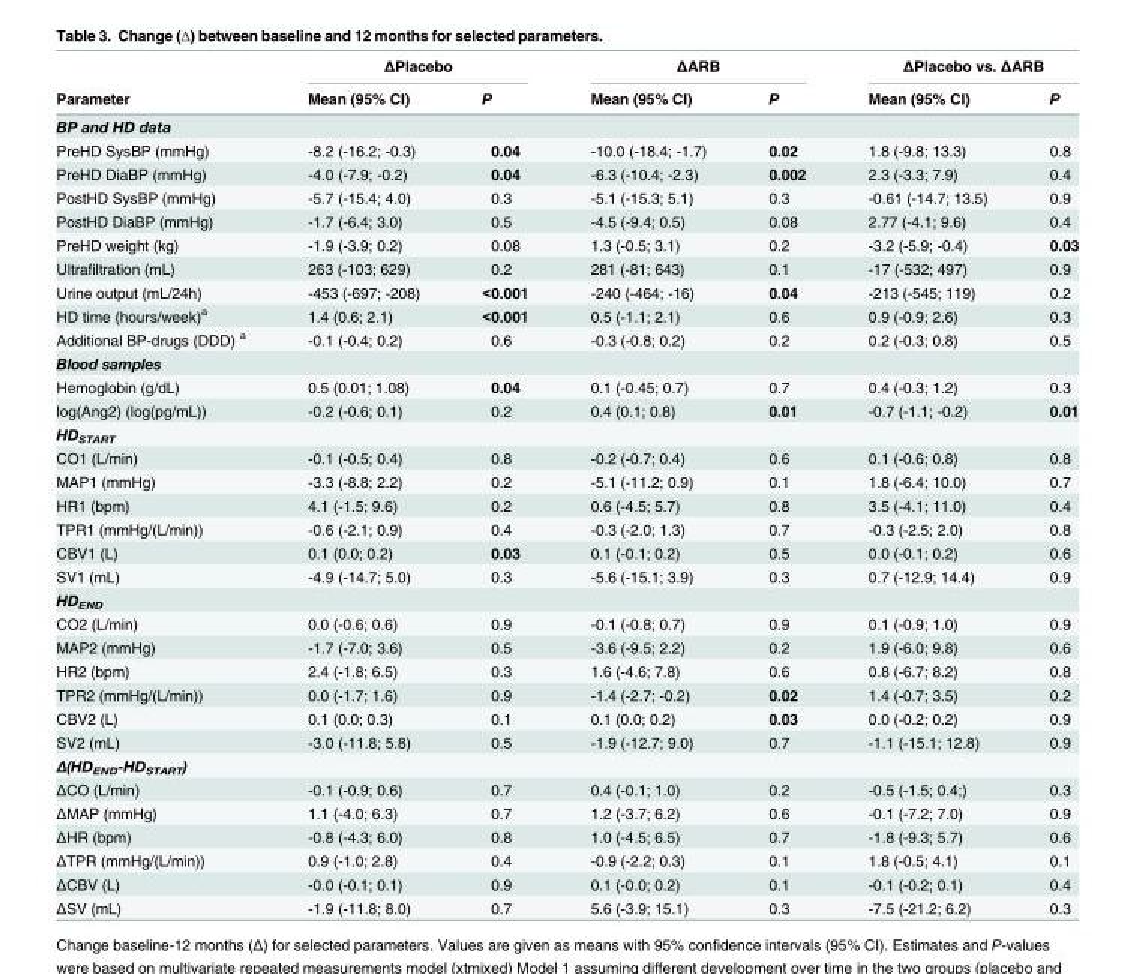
<table><thead><tr><td rowspan="2">Parameter</td><td colspan="2">ΔPlacebo</td><td colspan="2">ΔARB</td><td colspan="2">ΔPlacebo vs. ΔARB</td></tr><tr><td>Mean (95% CI)</td><td>P</td><td>Mean (95% CI)</td><td>P</td><td>Mean (95% CI)</td><td>P</td></tr></thead><tbody><tr><td colspan="7">BP and HD data</td></tr><tr><td>PreHD SysBP (mmHg)</td><td>-8.2 (-16.2; -0.3)</td><td>0.04</td><td>-10.0 (-18.4; -1.7)</td><td>0.02</td><td>1.8 (-9.8; 13.3)</td><td>0.8</td></tr><tr><td>PreHD DiaBP (mmHg)</td><td>-4.0 (-7.9; -0.2)</td><td>0.04</td><td>-6.3 (-10.4; -2.3)</td><td>0.002</td><td>2.3 (-3.3; 7.9)</td><td>0.4</td></tr><tr><td>PostHD SysBP (mmHg)</td><td>-5.7 (-15.4; 4.0)</td><td>0.3</td><td>-5.1 (-15.3; 5.1)</td><td>0.3</td><td>-0.61 (-14.7; 13.5)</td><td>0.9</td></tr><tr><td>PostHD DiaBP (mmHg)</td><td>-1.7 (-6.4; 3.0)</td><td>0.5</td><td>-4.5 (-9.4; 0.5)</td><td>0.08</td><td>2.77 (-4.1; 9.6)</td><td>0.4</td></tr><tr><td>PreHD weight (kg)</td><td>-1.9 (-3.9; 0.2)</td><td>0.08</td><td>1.3 (-0.5; 3.1)</td><td>0.2</td><td>-3.2 (-5.9; -0.4)</td><td>0.03</td></tr><tr><td>Ultrafiltration (mL)</td><td>263 (-103; 629)</td><td>0.2</td><td>281 (-81; 643)</td><td>0.1</td><td>-17 (-532; 497)</td><td>0.9</td></tr><tr><td>Urine output (mL/24h)</td><td>-453 (-697; -208)</td><td>&lt;0.001</td><td>-240 (-464; -16)</td><td>0.04</td><td>-213 (-545; 119)</td><td>0.2</td></tr><tr><td>HD time (hours/week)<sup>a</sup></td><td>1.4 (0.6; 2.1)</td><td>&lt;0.001</td><td>0.5 (-1.1; 2.1)</td><td>0.6</td><td>0.9 (-0.9; 2.6)</td><td>0.3</td></tr><tr><td>Additional BP-drugs (DDD) <sup>a</sup></td><td>-0.1 (-0.4; 0.2)</td><td>0.6</td><td>-0.3 (-0.8; 0.2)</td><td>0.2</td><td>0.2 (-0.3; 0.8)</td><td>0.5</td></tr><tr><td colspan="7">Blood samples</td></tr><tr><td>Hemoglobin (g/dL)</td><td>0.5 (0.01; 1.08)</td><td>0.04</td><td>0.1 (-0.45; 0.7)</td><td>0.7</td><td>0.4 (-0.3; 1.2)</td><td>0.3</td></tr><tr><td>log(Ang2) (log(pg/mL))</td><td>-0.2 (-0.6; 0.1)</td><td>0.2</td><td>0.4 (0.1; 0.8)</td><td>0.01</td><td>-0.7 (-1.1; -0.2)</td><td>0.01</td></tr><tr><td colspan="7">HD<sub>START</sub></td></tr><tr><td>CO1 (L/min)</td><td>-0.1 (-0.5; 0.4)</td><td>0.8</td><td>-0.2 (-0.7; 0.4)</td><td>0.6</td><td>0.1 (-0.6; 0.8)</td><td>0.8</td></tr><tr><td>MAP1 (mmHg)</td><td>-3.3 (-8.8; 2.2)</td><td>0.2</td><td>-5.1 (-11.2; 0.9)</td><td>0.1</td><td>1.8 (-6.4; 10.0)</td><td>0.7</td></tr><tr><td>HR1 (bpm)</td><td>4.1 (-1.5; 9.6)</td><td>0.2</td><td>0.6 (-4.5; 5.7)</td><td>0.8</td><td>3.5 (-4.1; 11.0)</td><td>0.4</td></tr><tr><td>TPR1 (mmHg/(L/min))</td><td>-0.6 (-2.1; 0.9)</td><td>0.4</td><td>-0.3 (-2.0; 1.3)</td><td>0.7</td><td>-0.3 (-2.5; 2.0)</td><td>0.8</td></tr><tr><td>CBV1 (L)</td><td>0.1 (0.0; 0.2)</td><td>0.03</td><td>0.1 (-0.1; 0.2)</td><td>0.5</td><td>0.0 (-0.1; 0.2)</td><td>0.6</td></tr><tr><td>SV1 (mL)</td><td>-4.9 (-14.7; 5.0)</td><td>0.3</td><td>-5.6 (-15.1; 3.9)</td><td>0.3</td><td>0.7 (-12.9; 14.4)</td><td>0.9</td></tr><tr><td colspan="7">HD<sub>END</sub></td></tr><tr><td>CO2 (L/min)</td><td>0.0 (-0.6; 0.6)</td><td>0.9</td><td>-0.1 (-0.8; 0.7)</td><td>0.9</td><td>0.1 (-0.9; 1.0)</td><td>0.9</td></tr><tr><td>MAP2 (mmHg)</td><td>-1.7 (-7.0; 3.6)</td><td>0.5</td><td>-3.6 (-9.5; 2.2)</td><td>0.2</td><td>1.9 (-6.0; 9.8)</td><td>0.6</td></tr><tr><td>HR2 (bpm)</td><td>2.4 (-1.8; 6.5)</td><td>0.3</td><td>1.6 (-4.6; 7.8)</td><td>0.6</td><td>0.8 (-6.7; 8.2)</td><td>0.8</td></tr><tr><td>TPR2 (mmHg/(L/min))</td><td>0.0 (-1.7; 1.6)</td><td>0.9</td><td>-1.4 (-2.7; -0.2)</td><td>0.02</td><td>1.4 (-0.7; 3.5)</td><td>0.2</td></tr><tr><td>CBV2 (L)</td><td>0.1 (0.0; 0.3)</td><td>0.1</td><td>0.1 (0.0; 0.2)</td><td>0.03</td><td>0.0 (-0.2; 0.2)</td><td>0.9</td></tr><tr><td>SV2 (mL)</td><td>-3.0 (-11.8; 5.8)</td><td>0.5</td><td>-1.9 (-12.7; 9.0)</td><td>0.7</td><td>-1.1 (-15.1; 12.8)</td><td>0.9</td></tr><tr><td colspan="7">Δ(HD<sub>END</sub>-HD<sub>START</sub>)</td></tr><tr><td>ΔCO (L/min)</td><td>-0.1 (-0.9; 0.6)</td><td>0.7</td><td>0.4 (-0.1; 1.0)</td><td>0.2</td><td>-0.5 (-1.5; 0.4;)</td><td>0.3</td></tr><tr><td>ΔMAP (mmHg)</td><td>1.1 (-4.0; 6.3)</td><td>0.7</td><td>1.2 (-3.7; 6.2)</td><td>0.6</td><td>-0.1 (-7.2; 7.0)</td><td>0.9</td></tr><tr><td>ΔHR (bpm)</td><td>-0.8 (-4.3; 6.0)</td><td>0.8</td><td>1.0 (-4.5; 6.5)</td><td>0.7</td><td>-1.8 (-9.3; 5.7)</td><td>0.6</td></tr><tr><td>ΔTPR (mmHg/(L/min))</td><td>0.9 (-1.0; 2.8)</td><td>0.4</td><td>-0.9 (-2.2; 0.3)</td><td>0.1</td><td>1.8 (-0.5; 4.1)</td><td>0.1</td></tr><tr><td>ΔCBV (L)</td><td>-0.0 (-0.1; 0.1)</td><td>0.9</td><td>0.1 (-0.0; 0.2)</td><td>0.1</td><td>-0.1 (-0.2; 0.1)</td><td>0.4</td></tr><tr><td>ΔSV (mL)</td><td>-1.9 (-11.8; 8.0)</td><td>0.7</td><td>5.6 (-3.9; 15.1)</td><td>0.3</td><td>-7.5 (-21.2; 6.2)</td><td>0.3</td></tr></tbody></table>